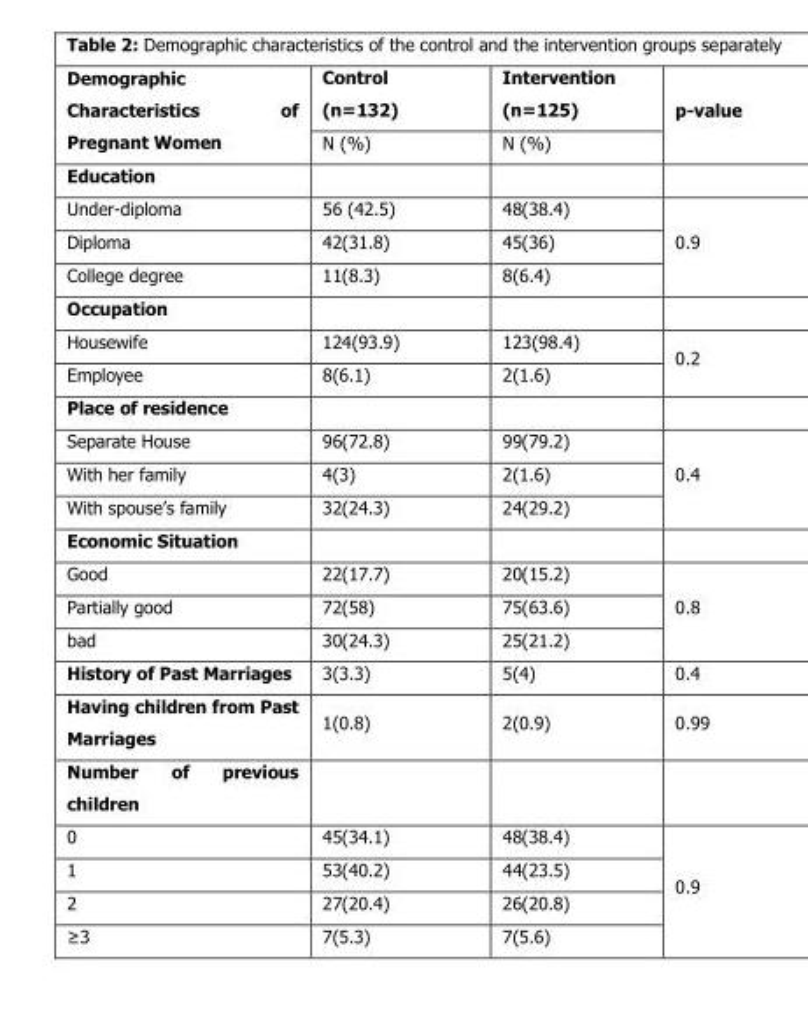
<table><thead><tr><td rowspan="2">Demographic Characteristics of Pregnant Women</td><td rowspan="2">Control (n=132) N (%)</td><td rowspan="2">Intervention (n=125) N (%)</td><td rowspan="2">p-value</td></tr><tr></tr></thead><tbody><tr><td colspan="4">Education</td></tr><tr><td>Under-diploma</td><td>56 (42.5)</td><td>48(38.4)</td><td rowspan="3">0.9</td></tr><tr><td>Diploma</td><td>42(31.8)</td><td>45(36)</td></tr><tr><td>College degree</td><td>11(8.3)</td><td>8(6.4)</td></tr><tr><td colspan="4">Occupation</td></tr><tr><td>Housewife</td><td>124(93.9)</td><td>123(98.4)</td><td rowspan="2">0.2</td></tr><tr><td>Employee</td><td>8(6.1)</td><td>2(1.6)</td></tr><tr><td colspan="4">Place of residence</td></tr><tr><td>Separate House</td><td>96(72.8)</td><td>99(79.2)</td><td rowspan="3">0.4</td></tr><tr><td>With her family</td><td>4(3)</td><td>2(1.6)</td></tr><tr><td>With spouse’s family</td><td>32(24.3)</td><td>24(29.2)</td></tr><tr><td colspan="4">Economic Situation</td></tr><tr><td>Good</td><td>22(17.7)</td><td>20(15.2)</td><td rowspan="3">0.8</td></tr><tr><td>Partially good</td><td>72(58)</td><td>75(63.6)</td></tr><tr><td>bad</td><td>30(24.3)</td><td>25(21.2)</td></tr><tr><td>History of Past Marriages</td><td>3(3.3)</td><td>5(4)</td><td>0.4</td></tr><tr><td>Having children from Past Marriages</td><td>1(0.8)</td><td>2(0.9)</td><td>0.99</td></tr><tr><td colspan="4">Number of previous children</td></tr><tr><td>0</td><td>45(34.1)</td><td>48(38.4)</td><td rowspan="4">0.9</td></tr><tr><td>1</td><td>53(40.2)</td><td>44(23.5)</td></tr><tr><td>2</td><td>27(20.4)</td><td>26(20.8)</td></tr><tr><td>≥3</td><td>7(5.3)</td><td>7(5.6)</td></tr></tbody></table>